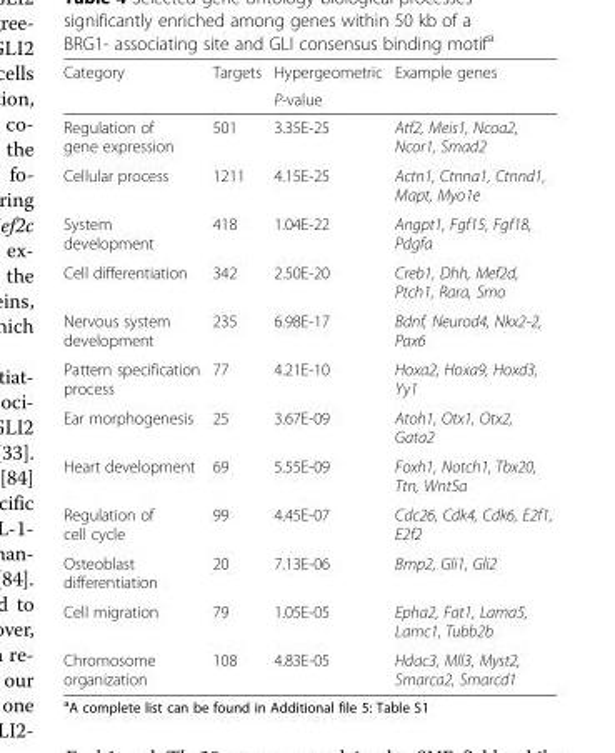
<table><thead><tr><td rowspan="2">Category</td><td rowspan="2">Targets</td><td rowspan="2">Hypergeometric P-value</td><td rowspan="2">Example genes</td></tr><tr></tr></thead><tbody><tr><td>Regulation of gene expression</td><td>501</td><td>3.35E-25</td><td>Atf2, Meis1, Ncoa2, Ncor1, Smad2</td></tr><tr><td>Cellular process</td><td>1211</td><td>4.15E-25</td><td>Actn1, Ctnna1, Ctnnd1, Mapt, Myo1e</td></tr><tr><td>System development</td><td>418</td><td>1.04E-22</td><td>Angpt1, Fgf15, Fgf18, Pdgfa</td></tr><tr><td>Cell differentiation</td><td>342</td><td>2.50E-20</td><td>Creb1, Dhh, Mef2d, Ptch1, Rara, Smo</td></tr><tr><td>Nervous system development</td><td>235</td><td>6.98E-17</td><td>Bdnf, Neurod4, Nkx2-2, Pax6</td></tr><tr><td>Pattern specification process</td><td>77</td><td>4.21E-10</td><td>Hoxa2, Hoxa9, Hoxd3, Yy1</td></tr><tr><td>Ear morphogenesis</td><td>25</td><td>3.67E-09</td><td>Atoh1, Otx1, Otx2, Gata2</td></tr><tr><td>Heart development</td><td>69</td><td>5.55E-09</td><td>Foxh1, Notch1, Tbx20, Ttn, Wnt5a</td></tr><tr><td>Regulation of cell cycle</td><td>99</td><td>4.45E-07</td><td>Cdc26, Cdk4, Cdk6, E2f1, E2f2</td></tr><tr><td>Osteoblast differentiation</td><td>20</td><td>7.13E-06</td><td>Bmp2, Gli1, Gli2</td></tr><tr><td>Cell migration</td><td>79</td><td>1.05E-05</td><td>Epha2, Fat1, Lama5, Lamc1, Tubb2b</td></tr><tr><td>Chromosome organization</td><td>108</td><td>4.83E-05</td><td>Hdac3, Mll3, Myst2, Smarca2, Smarcd1</td></tr></tbody></table>